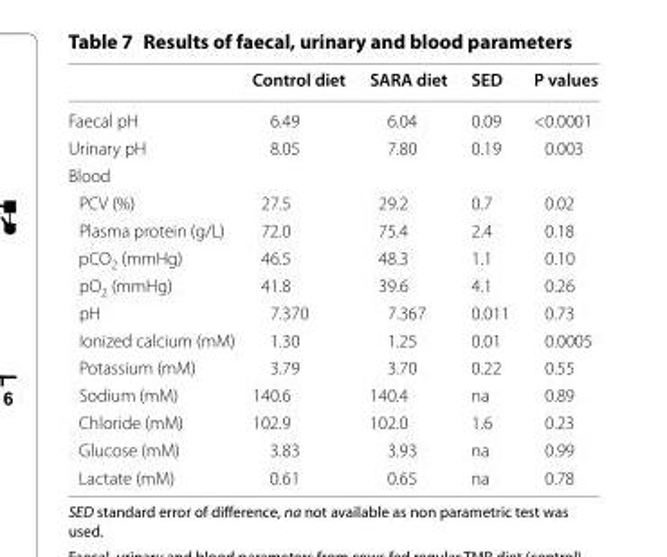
<table><thead><tr><td></td><td>Control diet</td><td>SARA diet</td><td>SED</td><td>P values</td></tr></thead><tbody><tr><td>Faecal pH</td><td>6.49</td><td>6.04</td><td>0.09</td><td>&lt;0.0001</td></tr><tr><td>Urinary pH</td><td>8.05</td><td>7.80</td><td>0.19</td><td>0.003</td></tr><tr><td colspan="5">Blood</td></tr><tr><td>PCV (%)</td><td>27.5</td><td>29.2</td><td>0.7</td><td>0.02</td></tr><tr><td>Plasma protein (g/L)</td><td>72.0</td><td>75.4</td><td>2.4</td><td>0.18</td></tr><tr><td>pCO<sub>2</sub> (mmHg)</td><td>46.5</td><td>48.3</td><td>1.1</td><td>0.10</td></tr><tr><td>pO<sub>2</sub> (mmHg)</td><td>41.8</td><td>39.6</td><td>4.1</td><td>0.26</td></tr><tr><td>pH</td><td>7.370</td><td>7.367</td><td>0.011</td><td>0.73</td></tr><tr><td>Ionized calcium (mM)</td><td>1.30</td><td>1.25</td><td>0.01</td><td>0.0005</td></tr><tr><td>Potassium (mM)</td><td>3.79</td><td>3.70</td><td>0.22</td><td>0.55</td></tr><tr><td>Sodium (mM)</td><td>140.6</td><td>140.4</td><td>na</td><td>0.89</td></tr><tr><td>Chloride (mM)</td><td>102.9</td><td>102.0</td><td>1.6</td><td>0.23</td></tr><tr><td>Glucose (mM)</td><td>3.83</td><td>3.93</td><td>na</td><td>0.99</td></tr><tr><td>Lactate (mM)</td><td>0.61</td><td>0.65</td><td>na</td><td>0.78</td></tr></tbody></table>